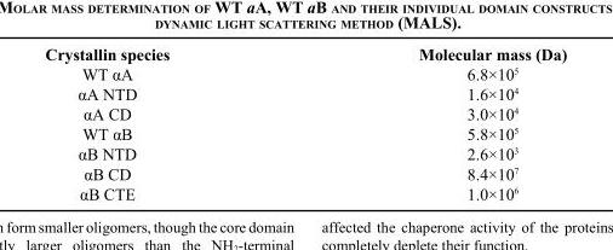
<table><thead><tr><td>Crystallin species</td><td>Molecular mass (Da)</td></tr></thead><tbody><tr><td>WT αA</td><td>6.8×10<sup>5</sup></td></tr><tr><td>αA NTD</td><td>1.6×10<sup>4</sup></td></tr><tr><td>αA CD</td><td>3.0×10<sup>4</sup></td></tr><tr><td>WT αB</td><td>5.8×10<sup>5</sup></td></tr><tr><td>αB NTD</td><td>2.6×10<sup>3</sup></td></tr><tr><td>αB CD</td><td>8.4×10<sup>7</sup></td></tr><tr><td>αB CTE</td><td>1.0×10<sup>6</sup></td></tr></tbody></table>